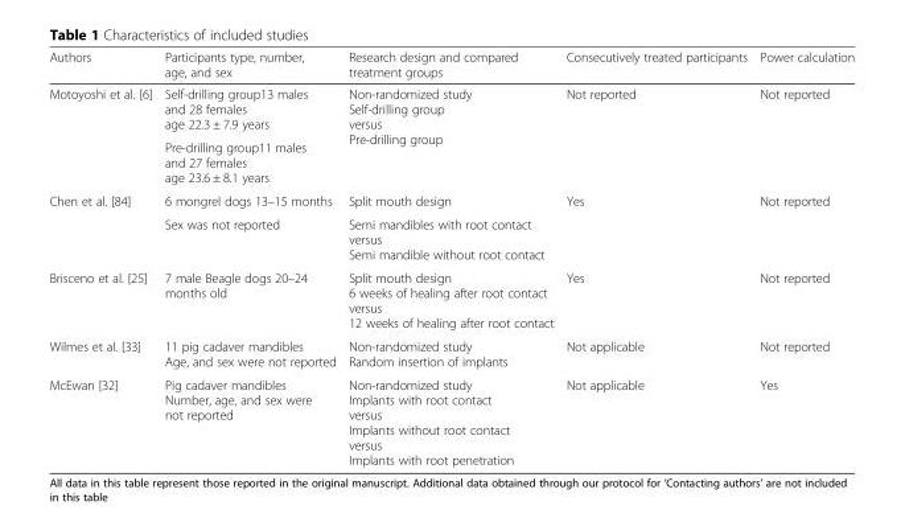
<table><thead><tr><td>Authors</td><td>Participants type, number, age, and sex</td><td>Research design and compared treatment groups</td><td>Consecutively treated participants</td><td>Power calculation</td></tr></thead><tbody><tr><td rowspan="2">Motoyoshi et al. [6]</td><td>Self-drilling group13 males and 28 females age 22.3 ± 7.9 years</td><td rowspan="2">Non-randomized study Self-drilling group versus Pre-drilling group</td><td rowspan="2">Not reported</td><td rowspan="2">Not reported</td></tr><tr><td>Pre-drilling group11 males and 27 females age 23.6 ± 8.1 years</td></tr><tr><td rowspan="2">Chen et al. [84]</td><td>6 mongrel dogs 13–15 months</td><td>Split mouth design</td><td rowspan="2">Yes</td><td rowspan="2">Not reported</td></tr><tr><td>Sex was not reported</td><td>Semi mandibles with root contact versus Semi mandible without root contact</td></tr><tr><td>Brisceno et al. [25]</td><td>7 male Beagle dogs 20–24 months old</td><td>Split mouth design 6 weeks of healing after root contact versus 12 weeks of healing after root contact</td><td>Yes</td><td>Not reported</td></tr><tr><td>Wilmes et al. [33]</td><td>11 pig cadaver mandibles Age, and sex were not reported</td><td>Non-randomized study Random insertion of implants</td><td>Not applicable</td><td>Not reported</td></tr><tr><td>McEwan [32]</td><td>Pig cadaver mandibles Number, age, and sex were not reported</td><td>Non-randomized study Implants with root contact versus Implants without root contact versus Implants with root penetration</td><td>Not applicable</td><td>Yes</td></tr></tbody></table>